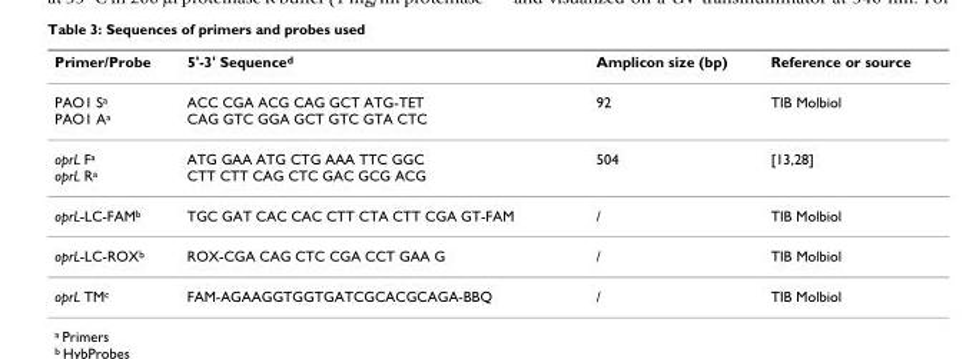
<table><thead><tr><td>Primer/Probe</td><td>5&#x27;-3&#x27; Sequence<sup>d</sup></td><td>Amplicon size (bp)</td><td>Reference or source</td></tr></thead><tbody><tr><td>PAO1 S<sup>a</sup> PAO1 A<sup>a</sup></td><td>ACC CGA ACG CAG GCT ATG-TET CAG GTC GGA GCT GTC GTA CTC</td><td>92</td><td>TIB Molbiol</td></tr><tr><td>oprL F<sup>a</sup> oprL R<sup>a</sup></td><td>ATG GAA ATG CTG AAA TTC GGC CTT CTT CAG CTC GAC GCG ACG</td><td>504</td><td>[13,28]</td></tr><tr><td>oprL-LC-FAM<sup>b</sup></td><td>TGC GAT CAC CAC CTT CTA CTT CGA GT-FAM</td><td>/</td><td>TIB Molbiol</td></tr><tr><td>oprL-LC-ROX<sup>b</sup></td><td>ROX-CGA CAG CTC CGA CCT GAA G</td><td>/</td><td>TIB Molbiol</td></tr><tr><td>oprL TM<sup>c</sup></td><td>FAM-AGAAGGTGGTGATCGCACGCAGA-BBQ</td><td>/</td><td>TIB Molbiol</td></tr></tbody></table>